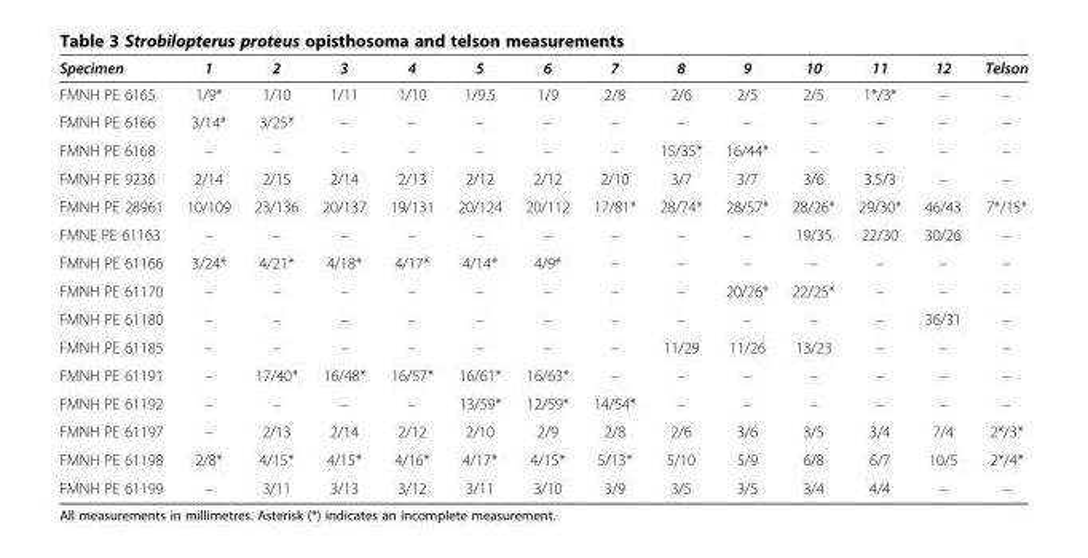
<table><thead><tr><td>Specimen</td><td>1</td><td>2</td><td>3</td><td>4</td><td>5</td><td>6</td><td>7</td><td>8</td><td>9</td><td>10</td><td>11</td><td>12</td><td>Telson</td></tr></thead><tbody><tr><td>FMNH PE 6165</td><td>1/9*</td><td>1/10</td><td>1/11</td><td>1/10</td><td>1/9.5</td><td>1/9</td><td>2/8</td><td>2/6</td><td>2/5</td><td>2/5</td><td>1*/3*</td><td>–</td><td>–</td></tr><tr><td>FMNH PE 6166</td><td>3/14*</td><td>3/25*</td><td>–</td><td>–</td><td>–</td><td>–</td><td>–</td><td>–</td><td>–</td><td>–</td><td>–</td><td>–</td><td>–</td></tr><tr><td>FMNH PE 6168</td><td>–</td><td>–</td><td>–</td><td>–</td><td>–</td><td>–</td><td>–</td><td>15/35*</td><td>16/44*</td><td>–</td><td>–</td><td>–</td><td>–</td></tr><tr><td>FMNH PE 9236</td><td>2/14</td><td>2/15</td><td>2/14</td><td>2/13</td><td>2/12</td><td>2/12</td><td>2/10</td><td>3/7</td><td>3/7</td><td>3/6</td><td>3.5/3</td><td>–</td><td>–</td></tr><tr><td>FMNH PE 28961</td><td>10/109</td><td>23/136</td><td>20/137</td><td>19/131</td><td>20/124</td><td>20/112</td><td>17/81*</td><td>28/74*</td><td>28/57*</td><td>28/26*</td><td>29/30*</td><td>46/43</td><td>7*/15*</td></tr><tr><td>FMNE PE 61163</td><td>–</td><td>–</td><td>–</td><td>–</td><td>–</td><td>–</td><td>–</td><td>–</td><td>–</td><td>19/35</td><td>22/30</td><td>30/26</td><td>–</td></tr><tr><td>FMNH PE 61166</td><td>3/24*</td><td>4/21*</td><td>4/18*</td><td>4/17*</td><td>4/14*</td><td>4/9*</td><td>–</td><td>–</td><td>–</td><td>–</td><td>–</td><td>–</td><td>–</td></tr><tr><td>FMNH PE 61170</td><td>–</td><td>–</td><td>–</td><td>–</td><td>–</td><td>–</td><td>–</td><td>–</td><td>20/26*</td><td>22/25*</td><td>–</td><td>–</td><td>–</td></tr><tr><td>FMNH PE 61180</td><td>–</td><td>–</td><td>–</td><td>–</td><td>–</td><td>–</td><td>–</td><td>–</td><td>–</td><td>–</td><td>–</td><td>36/31</td><td>–</td></tr><tr><td>FMNH PE 61185</td><td>–</td><td>–</td><td>–</td><td>–</td><td>–</td><td>–</td><td>–</td><td>11/29</td><td>11/26</td><td>13/23</td><td>–</td><td>–</td><td>–</td></tr><tr><td>FMNH PE 61191</td><td>–</td><td>17/40*</td><td>16/48*</td><td>16/57*</td><td>16/61*</td><td>16/63*</td><td>–</td><td>–</td><td>–</td><td>–</td><td>–</td><td>–</td><td>–</td></tr><tr><td>FMNH PE 61192</td><td>–</td><td>–</td><td>–</td><td>–</td><td>13/59*</td><td>12/59*</td><td>14/54*</td><td>–</td><td>–</td><td>–</td><td>–</td><td>–</td><td>–</td></tr><tr><td>FMNH PE 61197</td><td>–</td><td>2/13</td><td>2/14</td><td>2/12</td><td>2/10</td><td>2/9</td><td>2/8</td><td>2/6</td><td>3/6</td><td>3/5</td><td>3/4</td><td>7/4</td><td>2*/3*</td></tr><tr><td>FMNH PE 61198</td><td>2/8*</td><td>4/15*</td><td>4/15*</td><td>4/16*</td><td>4/17*</td><td>4/15*</td><td>5/13*</td><td>5/10</td><td>5/9</td><td>6/8</td><td>6/7</td><td>10/5</td><td>2*/4*</td></tr><tr><td>FMNH PE 61199</td><td>–</td><td>3/11</td><td>3/13</td><td>3/12</td><td>3/11</td><td>3/10</td><td>3/9</td><td>3/5</td><td>3/5</td><td>3/4</td><td>4/4</td><td>–</td><td>–</td></tr></tbody></table>